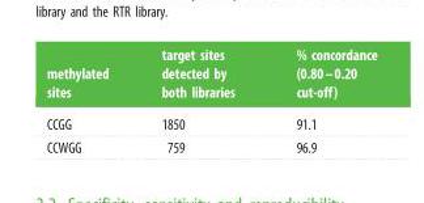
<table><thead><tr><td>methylated sites</td><td>target sites detected by both libraries</td><td>% concordance (0.80–0.20 cut-off)</td></tr></thead><tbody><tr><td>CCGG</td><td>1850</td><td>91.1</td></tr><tr><td>CCWGG</td><td>759</td><td>96.9</td></tr></tbody></table>